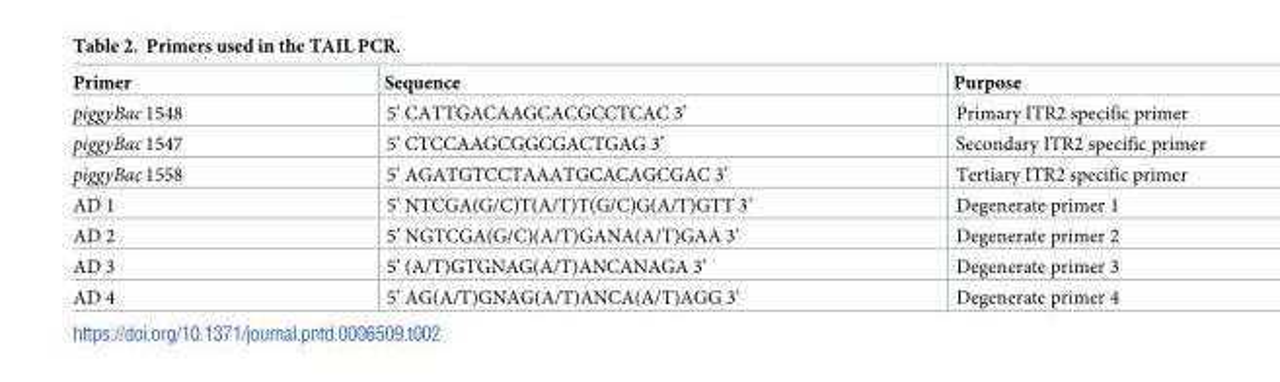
<table><thead><tr><td>Primer</td><td>Sequence</td><td>Purpose</td></tr></thead><tbody><tr><td>piggyBac 1548</td><td>5’ CATTGACAAGCACGCCTCAC 3’</td><td>Primary ITR2 specific primer</td></tr><tr><td>piggyBac 1547</td><td>5’ CTCCAAGCGGCGACTGAG 3’</td><td>Secondary ITR2 specific primer</td></tr><tr><td>piggyBac 1558</td><td>5’ AGATGTCCTAAATGCACAGCGAC 3’</td><td>Tertiary ITR2 specific primer</td></tr><tr><td>AD 1</td><td>5’ NTCGA(G/C)T(A/T)T(G/C)G(A/T)GTT 3’</td><td>Degenerate primer 1</td></tr><tr><td>AD 2</td><td>5’ NGTCGA(G/C)(A/T)GANA(A/T)GAA 3’</td><td>Degenerate primer 2</td></tr><tr><td>AD 3</td><td>5’ (A/T)GTGNAG(A/T)ANCANAGA 3’</td><td>Degenerate primer 3</td></tr><tr><td>AD 4</td><td>5’ AG(A/T)GNAG(A/T)ANCA(A/T)AGG 3’</td><td>Degenerate primer 4</td></tr></tbody></table>